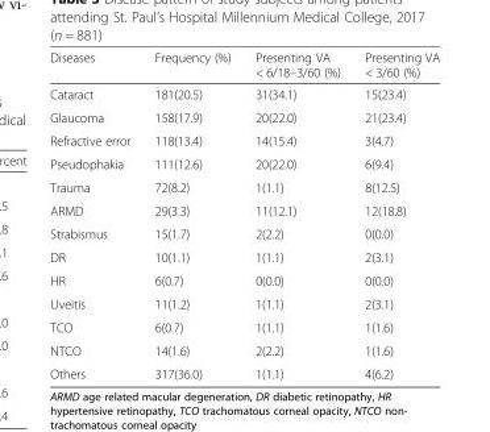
<table><thead><tr><td>Diseases</td><td>Frequency (%)</td><td>Presenting VA &lt; 6/18–3/60 (%)</td><td>Presenting VA &lt; 3/60 (%)</td></tr></thead><tbody><tr><td>Cataract</td><td>181(20.5)</td><td>31(34.1)</td><td>15(23.4)</td></tr><tr><td>Glaucoma</td><td>158(17.9)</td><td>20(22.0)</td><td>21(23.4)</td></tr><tr><td>Refractive error</td><td>118(13.4)</td><td>14(15.4)</td><td>3(4.7)</td></tr><tr><td>Pseudophakia</td><td>111(12.6)</td><td>20(22.0)</td><td>6(9.4)</td></tr><tr><td>Trauma</td><td>72(8.2)</td><td>1(1.1)</td><td>8(12.5)</td></tr><tr><td>ARMD</td><td>29(3.3)</td><td>11(12.1)</td><td>12(18.8)</td></tr><tr><td>Strabismus</td><td>15(1.7)</td><td>2(2.2)</td><td>0(0.0)</td></tr><tr><td>DR</td><td>10(1.1)</td><td>1(1.1)</td><td>2(3.1)</td></tr><tr><td>HR</td><td>6(0.7)</td><td>0(0.0)</td><td>0(0.0)</td></tr><tr><td>Uveitis</td><td>11(1.2)</td><td>1(1.1)</td><td>2(3.1)</td></tr><tr><td>TCO</td><td>6(0.7)</td><td>1(1.1)</td><td>1(1.6)</td></tr><tr><td>NTCO</td><td>14(1.6)</td><td>2(2.2)</td><td>1(1.6)</td></tr><tr><td>Others</td><td>317(36.0)</td><td>1(1.1)</td><td>4(6.2)</td></tr></tbody></table>